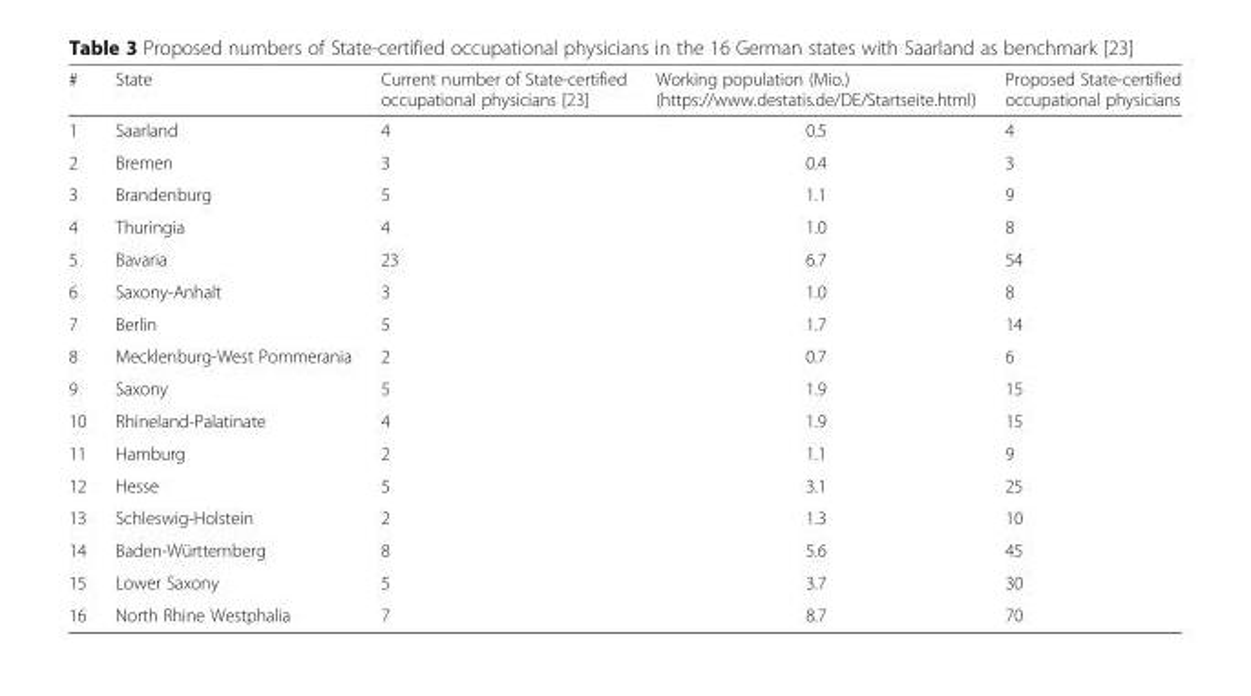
<table><thead><tr><td>#</td><td>State</td><td>Current number of State-certified occupational physicians [23]</td><td>Working population (Mio.) (https://www.destatis.de/DE/Startseite.html)</td><td>Proposed State-certified occupational physicians</td></tr></thead><tbody><tr><td>1</td><td>Saarland</td><td>4</td><td>0.5</td><td>4</td></tr><tr><td>2</td><td>Bremen</td><td>3</td><td>0.4</td><td>3</td></tr><tr><td>3</td><td>Brandenburg</td><td>5</td><td>1.1</td><td>9</td></tr><tr><td>4</td><td>Thuringia</td><td>4</td><td>1.0</td><td>8</td></tr><tr><td>5</td><td>Bavaria</td><td>23</td><td>6.7</td><td>54</td></tr><tr><td>6</td><td>Saxony-Anhalt</td><td>3</td><td>1.0</td><td>8</td></tr><tr><td>7</td><td>Berlin</td><td>5</td><td>1.7</td><td>14</td></tr><tr><td>8</td><td>Mecklenburg-West Pommerania</td><td>2</td><td>0.7</td><td>6</td></tr><tr><td>9</td><td>Saxony</td><td>5</td><td>1.9</td><td>15</td></tr><tr><td>10</td><td>Rhineland-Palatinate</td><td>4</td><td>1.9</td><td>15</td></tr><tr><td>11</td><td>Hamburg</td><td>2</td><td>1.1</td><td>9</td></tr><tr><td>12</td><td>Hesse</td><td>5</td><td>3.1</td><td>25</td></tr><tr><td>13</td><td>Schleswig-Holstein</td><td>2</td><td>1.3</td><td>10</td></tr><tr><td>14</td><td>Baden-Württemberg</td><td>8</td><td>5.6</td><td>45</td></tr><tr><td>15</td><td>Lower Saxony</td><td>5</td><td>3.7</td><td>30</td></tr><tr><td>16</td><td>North Rhine Westphalia</td><td>7</td><td>8.7</td><td>70</td></tr></tbody></table>